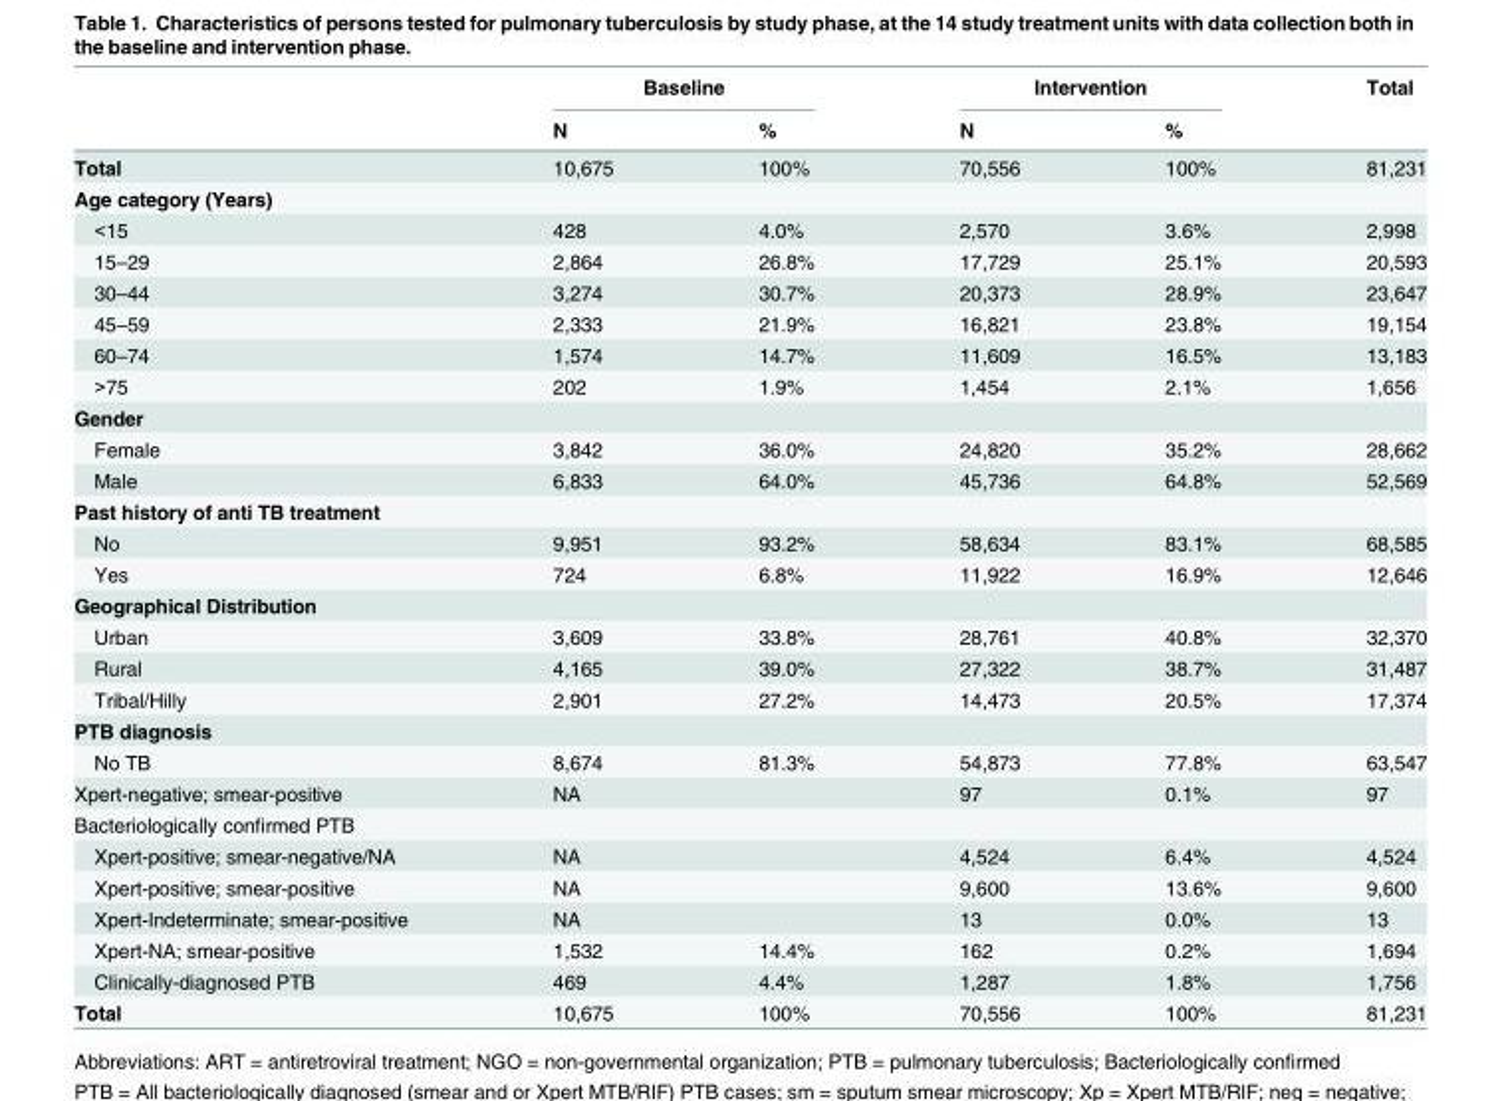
<table><thead><tr><td rowspan="2"></td><td colspan="2">Baseline</td><td colspan="2">Intervention</td><td rowspan="2">Total</td></tr><tr><td>N</td><td>%</td><td>N</td><td>%</td></tr></thead><tbody><tr><td>Total</td><td>10,675</td><td>100%</td><td>70,556</td><td>100%</td><td>81,231</td></tr><tr><td colspan="6">Age category (Years)</td></tr><tr><td>&lt;15</td><td>428</td><td>4.0%</td><td>2,570</td><td>3.6%</td><td>2,998</td></tr><tr><td>15–29</td><td>2,864</td><td>26.8%</td><td>17,729</td><td>25.1%</td><td>20,593</td></tr><tr><td>30–44</td><td>3,274</td><td>30.7%</td><td>20,373</td><td>28.9%</td><td>23,647</td></tr><tr><td>45–59</td><td>2,333</td><td>21.9%</td><td>16,821</td><td>23.8%</td><td>19,154</td></tr><tr><td>60–74</td><td>1,574</td><td>14.7%</td><td>11,609</td><td>16.5%</td><td>13,183</td></tr><tr><td>&gt;75</td><td>202</td><td>1.9%</td><td>1,454</td><td>2.1%</td><td>1,656</td></tr><tr><td colspan="6">Gender</td></tr><tr><td>Female</td><td>3,842</td><td>36.0%</td><td>24,820</td><td>35.2%</td><td>28,662</td></tr><tr><td>Male</td><td>6,833</td><td>64.0%</td><td>45,736</td><td>64.8%</td><td>52,569</td></tr><tr><td colspan="6">Past history of anti TB treatment</td></tr><tr><td>No</td><td>9,951</td><td>93.2%</td><td>58,634</td><td>83.1%</td><td>68,585</td></tr><tr><td>Yes</td><td>724</td><td>6.8%</td><td>11,922</td><td>16.9%</td><td>12,646</td></tr><tr><td colspan="6">Geographical Distribution</td></tr><tr><td>Urban</td><td>3,609</td><td>33.8%</td><td>28,761</td><td>40.8%</td><td>32,370</td></tr><tr><td>Rural</td><td>4,165</td><td>39.0%</td><td>27,322</td><td>38.7%</td><td>31,487</td></tr><tr><td>Tribal/Hilly</td><td>2,901</td><td>27.2%</td><td>14,473</td><td>20.5%</td><td>17,374</td></tr><tr><td colspan="6">PTB diagnosis</td></tr><tr><td>No TB</td><td>8,674</td><td>81.3%</td><td>54,873</td><td>77.8%</td><td>63,547</td></tr><tr><td>Xpert-negative; smear-positive</td><td>NA</td><td></td><td>97</td><td>0.1%</td><td>97</td></tr><tr><td colspan="6">Bacteriologically confirmed PTB</td></tr><tr><td>Xpert-positive; smear-negative/NA</td><td>NA</td><td></td><td>4,524</td><td>6.4%</td><td>4,524</td></tr><tr><td>Xpert-positive; smear-positive</td><td>NA</td><td></td><td>9,600</td><td>13.6%</td><td>9,600</td></tr><tr><td>Xpert-Indeterminate; smear-positive</td><td>NA</td><td></td><td>13</td><td>0.0%</td><td>13</td></tr><tr><td>Xpert-NA; smear-positive</td><td>1,532</td><td>14.4%</td><td>162</td><td>0.2%</td><td>1,694</td></tr><tr><td>Clinically-diagnosed PTB</td><td>469</td><td>4.4%</td><td>1,287</td><td>1.8%</td><td>1,756</td></tr><tr><td>Total</td><td>10,675</td><td>100%</td><td>70,556</td><td>100%</td><td>81,231</td></tr></tbody></table>